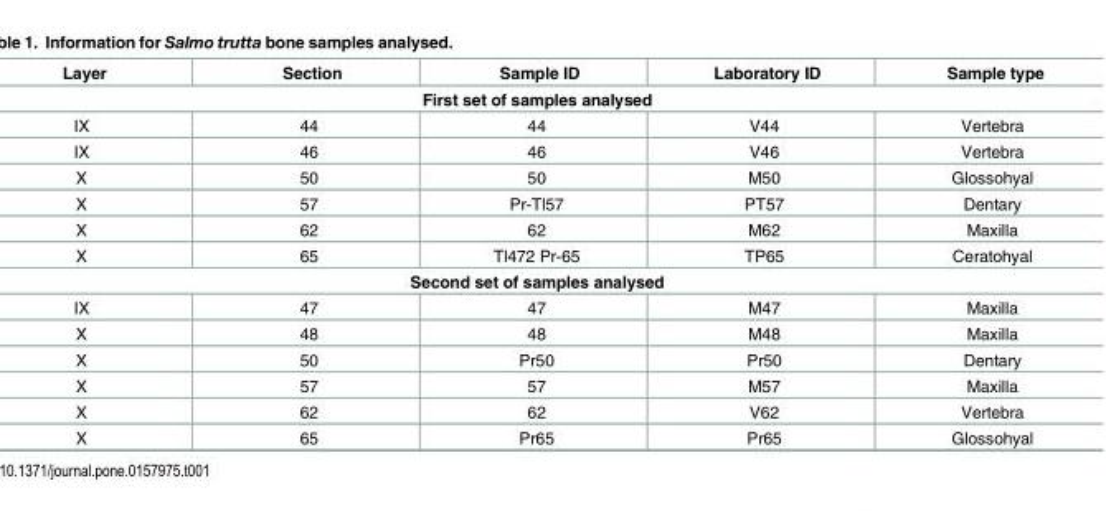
<table><thead><tr><td>Layer</td><td>Section</td><td>Sample ID</td><td>Laboratory ID</td><td>Sample type</td></tr></thead><tbody><tr><td colspan="5">First set of samples analysed</td></tr><tr><td>IX</td><td>44</td><td>44</td><td>V44</td><td>Vertebra</td></tr><tr><td>IX</td><td>46</td><td>46</td><td>V46</td><td>Vertebra</td></tr><tr><td>X</td><td>50</td><td>50</td><td>M50</td><td>Glossohyal</td></tr><tr><td>X</td><td>57</td><td>Pr-Tl57</td><td>PT57</td><td>Dentary</td></tr><tr><td>X</td><td>62</td><td>62</td><td>M62</td><td>Maxilla</td></tr><tr><td>X</td><td>65</td><td>Tl472 Pr-65</td><td>TP65</td><td>Ceratohyal</td></tr><tr><td colspan="5">Second set of samples analysed</td></tr><tr><td>IX</td><td>47</td><td>47</td><td>M47</td><td>Maxilla</td></tr><tr><td>X</td><td>48</td><td>48</td><td>M48</td><td>Maxilla</td></tr><tr><td>X</td><td>50</td><td>Pr50</td><td>Pr50</td><td>Dentary</td></tr><tr><td>X</td><td>57</td><td>57</td><td>M57</td><td>Maxilla</td></tr><tr><td>X</td><td>62</td><td>62</td><td>V62</td><td>Vertebra</td></tr><tr><td>X</td><td>65</td><td>Pr65</td><td>Pr65</td><td>Glossohyal</td></tr></tbody></table>